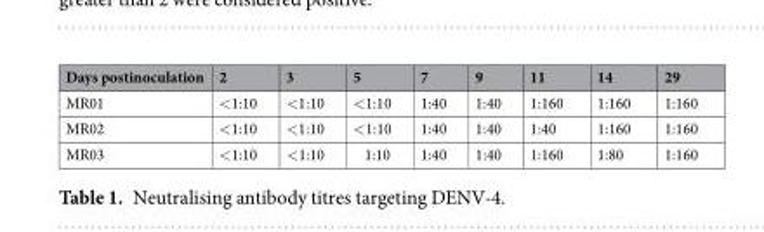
<table><thead><tr><td>Days postinoculation</td><td>2</td><td>3</td><td>5</td><td>7</td><td>9</td><td>11</td><td>14</td><td>29</td></tr></thead><tbody><tr><td>MR01</td><td>&lt;1:10</td><td>&lt;1:10</td><td>&lt;1:10</td><td>1:40</td><td>1:40</td><td>1:160</td><td>1:160</td><td>1:160</td></tr><tr><td>MR02</td><td>&lt;1:10</td><td>&lt;1:10</td><td>&lt;1:10</td><td>1:40</td><td>1:40</td><td>1:40</td><td>1:160</td><td>1:160</td></tr><tr><td>MR03</td><td>&lt;1:10</td><td>&lt;1:10</td><td>1:10</td><td>1:40</td><td>1:40</td><td>1:160</td><td>1:80</td><td>1:160</td></tr></tbody></table>